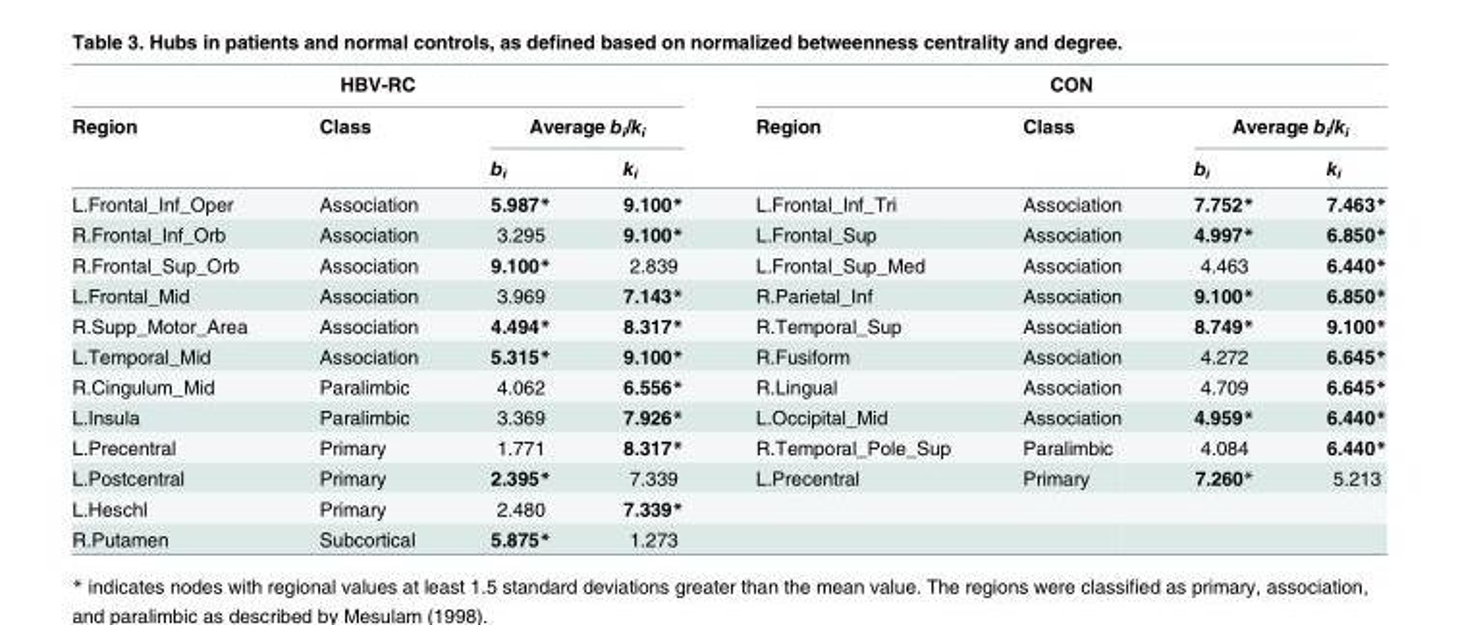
<table><thead><tr><td colspan="4">HBV-RC</td><td colspan="4">CON</td></tr><tr><td rowspan="2">Region</td><td rowspan="2">Class</td><td colspan="2">Average b<sub>i</sub>/k<sub>i</sub></td><td rowspan="2">Region</td><td rowspan="2">Class</td><td colspan="2">Average b<sub>i</sub>/k<sub>i</sub></td></tr><tr><td>b<sub>i</sub></td><td>k<sub>i</sub></td><td>b<sub>i</sub></td><td>k<sub>i</sub></td></tr></thead><tbody><tr><td>L.Frontal_Inf_Oper</td><td>Association</td><td>5.987*</td><td>9.100*</td><td>L.Frontal_Inf_Tri</td><td>Association</td><td>7.752*</td><td>7.463*</td></tr><tr><td>R.Frontal_Inf_Orb</td><td>Association</td><td>3.295</td><td>9.100*</td><td>L.Frontal_Sup</td><td>Association</td><td>4.997*</td><td>6.850*</td></tr><tr><td>R.Frontal_Sup_Orb</td><td>Association</td><td>9.100*</td><td>2.839</td><td>L.Frontal_Sup_Med</td><td>Association</td><td>4.463</td><td>6.440*</td></tr><tr><td>L.Frontal_Mid</td><td>Association</td><td>3.969</td><td>7.143*</td><td>R.Parietal_Inf</td><td>Association</td><td>9.100*</td><td>6.850*</td></tr><tr><td>R.Supp_Motor_Area</td><td>Association</td><td>4.494*</td><td>8.317*</td><td>R.Temporal_Sup</td><td>Association</td><td>8.749*</td><td>9.100*</td></tr><tr><td>L.Temporal_Mid</td><td>Association</td><td>5.315*</td><td>9.100*</td><td>R.Fusiform</td><td>Association</td><td>4.272</td><td>6.645*</td></tr><tr><td>R.Cingulum_Mid</td><td>Paralimbic</td><td>4.062</td><td>6.556*</td><td>R.Lingual</td><td>Association</td><td>4.709</td><td>6.645*</td></tr><tr><td>L.Insula</td><td>Paralimbic</td><td>3.369</td><td>7.926*</td><td>L.Occipital_Mid</td><td>Association</td><td>4.959*</td><td>6.440*</td></tr><tr><td>L.Precentral</td><td>Primary</td><td>1.771</td><td>8.317*</td><td>R.Temporal_Pole_Sup</td><td>Paralimbic</td><td>4.084</td><td>6.440*</td></tr><tr><td>L.Postcentral</td><td>Primary</td><td>2.395*</td><td>7.339</td><td>L.Precentral</td><td>Primary</td><td>7.260*</td><td>5.213</td></tr><tr><td>L.Heschl</td><td>Primary</td><td>2.480</td><td>7.339*</td><td></td><td></td><td></td><td></td></tr><tr><td>R.Putamen</td><td>Subcortical</td><td>5.875*</td><td>1.273</td><td></td><td></td><td></td><td></td></tr></tbody></table>